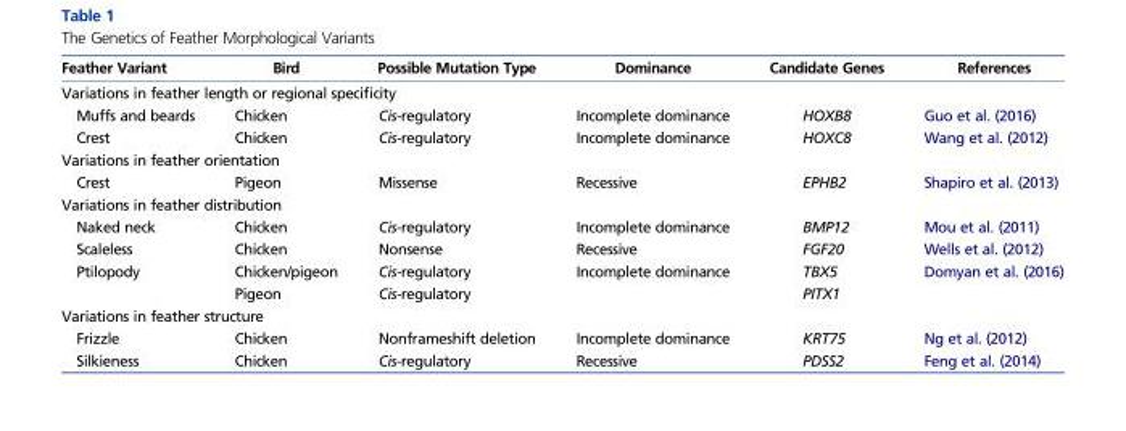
<table><thead><tr><td>Feather Variant</td><td>Bird</td><td>Possible Mutation Type</td><td>Dominance</td><td>Candidate Genes</td><td>References</td></tr></thead><tbody><tr><td colspan="6">Variations in feather length or regional specificity</td></tr><tr><td>Muffs and beards</td><td>Chicken</td><td>Cis-regulatory</td><td>Incomplete dominance</td><td>HOXB8</td><td>Guo et al. (2016)</td></tr><tr><td>Crest</td><td>Chicken</td><td>Cis-regulatory</td><td>Incomplete dominance</td><td>HOXC8</td><td>Wang et al. (2012)</td></tr><tr><td colspan="6">Variations in feather orientation</td></tr><tr><td>Crest</td><td>Pigeon</td><td>Missense</td><td>Recessive</td><td>EPHB2</td><td>Shapiro et al. (2013)</td></tr><tr><td colspan="6">Variations in feather distribution</td></tr><tr><td>Naked neck</td><td>Chicken</td><td>Cis-regulatory</td><td>Incomplete dominance</td><td>BMP12</td><td>Mou et al. (2011)</td></tr><tr><td>Scaleless</td><td>Chicken</td><td>Nonsense</td><td>Recessive</td><td>FGF20</td><td>Wells et al. (2012)</td></tr><tr><td rowspan="2">Ptilopody</td><td>Chicken/pigeon</td><td>Cis-regulatory</td><td>Incomplete dominance</td><td>TBX5</td><td>Domyan et al. (2016)</td></tr><tr><td>Pigeon</td><td>Cis-regulatory</td><td></td><td>PITX1</td><td></td></tr><tr><td colspan="6">Variations in feather structure</td></tr><tr><td>Frizzle</td><td>Chicken</td><td>Nonframeshift deletion</td><td>Incomplete dominance</td><td>KRT75</td><td>Ng et al. (2012)</td></tr><tr><td>Silkieness</td><td>Chicken</td><td>Cis-regulatory</td><td>Recessive</td><td>PDSS2</td><td>Feng et al. (2014)</td></tr></tbody></table>